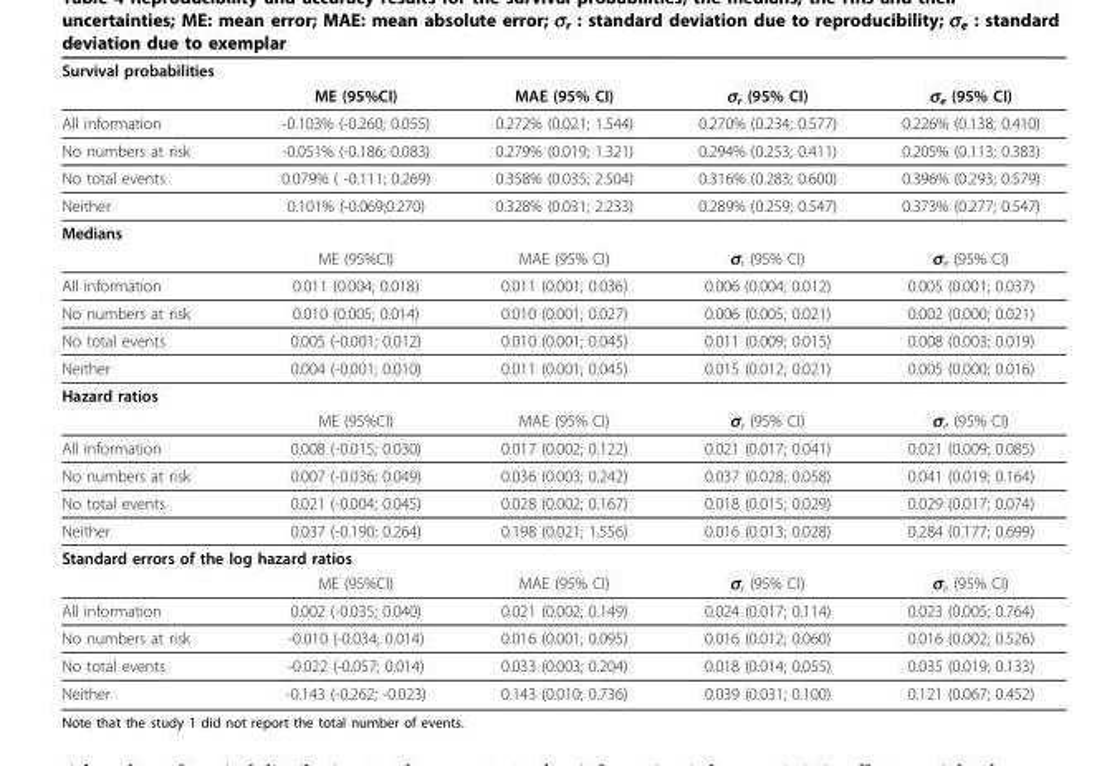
<table><thead><tr><td colspan="5">Survival probabilities</td></tr><tr><td></td><td>ME (95%CI)</td><td>MAE (95% CI)</td><td>σ<sub>r</sub> (95% CI)</td><td>σ<sub>e</sub> (95% CI)</td></tr></thead><tbody><tr><td>All information</td><td>-0.103% (-0.260; 0.055)</td><td>0.272% (0.021; 1.544)</td><td>0.270% (0.234; 0.577)</td><td>0.226% (0.138; 0.410)</td></tr><tr><td>No numbers at risk</td><td>-0.051% (-0.186; 0.083)</td><td>0.279% (0.019; 1.321)</td><td>0.294% (0.253; 0.411)</td><td>0.205% (0.113; 0.383)</td></tr><tr><td>No total events</td><td>0.079% ( -0.111; 0.269)</td><td>0.358% (0.035; 2.504)</td><td>0.316% (0.283; 0.600)</td><td>0.396% (0.293; 0.579)</td></tr><tr><td>Neither</td><td>0.101% (-0.069;0.270)</td><td>0.328% (0.031; 2.233)</td><td>0.289% (0.259; 0.547)</td><td>0.373% (0.277; 0.547)</td></tr><tr><td colspan="5">Medians</td></tr><tr><td></td><td>ME (95%CI)</td><td>MAE (95% CI)</td><td>σ<sub>r</sub> (95% CI)</td><td>σ<sub>e</sub> (95% CI)</td></tr><tr><td>All information</td><td>0.011 (0.004; 0.018)</td><td>0.011 (0.001; 0.036)</td><td>0.006 (0.004; 0.012)</td><td>0.005 (0.001; 0.037)</td></tr><tr><td>No numbers at risk</td><td>0.010 (0.005; 0.014)</td><td>0.010 (0.001; 0.027)</td><td>0.006 (0.005; 0.021)</td><td>0.002 (0.000; 0.021)</td></tr><tr><td>No total events</td><td>0.005 (-0.001; 0.012)</td><td>0.010 (0.001; 0.045)</td><td>0.011 (0.009; 0.015)</td><td>0.008 (0.003; 0.019)</td></tr><tr><td>Neither</td><td>0.004 (-0.001; 0.010)</td><td>0.011 (0.001; 0.045)</td><td>0.015 (0.012; 0.021)</td><td>0.005 (0.000; 0.016)</td></tr><tr><td colspan="5">Hazard ratios</td></tr><tr><td></td><td>ME (95%CI)</td><td>MAE (95% CI)</td><td>σ<sub>r</sub> (95% CI)</td><td>σ<sub>e</sub> (95% CI)</td></tr><tr><td>All information</td><td>0.008 (-0.015; 0.030)</td><td>0.017 (0.002; 0.122)</td><td>0.021 (0.017; 0.041)</td><td>0.021 (0.009; 0.085)</td></tr><tr><td>No numbers at risk</td><td>0.007 (-0.036; 0.049)</td><td>0.036 (0.003; 0.242)</td><td>0.037 (0.028; 0.058)</td><td>0.041 (0.019; 0.164)</td></tr><tr><td>No total events</td><td>0.021 (-0.004; 0.045)</td><td>0.028 (0.002; 0.167)</td><td>0.018 (0.015; 0.029)</td><td>0.029 (0.017; 0.074)</td></tr><tr><td>Neither</td><td>0.037 (-0.190; 0.264)</td><td>0.198 (0.021; 1.556)</td><td>0.016 (0.013; 0.028)</td><td>0.284 (0.177; 0.699)</td></tr><tr><td colspan="5">Standard errors of the log hazard ratios</td></tr><tr><td></td><td>ME (95%CI)</td><td>MAE (95% CI)</td><td>σ<sub>r</sub> (95% CI)</td><td>σ<sub>e</sub> (95% CI)</td></tr><tr><td>All information</td><td>0.002 (-0.035; 0.040)</td><td>0.021 (0.002; 0.149)</td><td>0.024 (0.017; 0.114)</td><td>0.023 (0.005; 0.764)</td></tr><tr><td>No numbers at risk</td><td>-0.010 (-0.034; 0.014)</td><td>0.016 (0.001; 0.095)</td><td>0.016 (0.012; 0.060)</td><td>0.016 (0.002; 0.526)</td></tr><tr><td>No total events</td><td>-0.022 (-0.057; 0.014)</td><td>0.033 (0.003; 0.204)</td><td>0.018 (0.014; 0.055)</td><td>0.035 (0.019; 0.133)</td></tr><tr><td>Neither</td><td>-0.143 (-0.262; -0.023)</td><td>0.143 (0.010; 0.736)</td><td>0.039 (0.031; 0.100)</td><td>0.121 (0.067; 0.452)</td></tr></tbody></table>